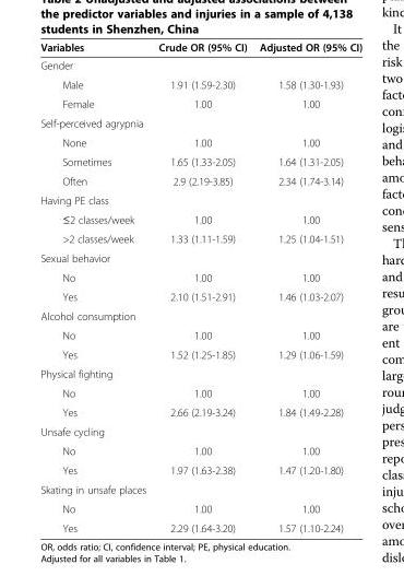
<table><thead><tr><td>Variables</td><td>Crude OR (95% CI)</td><td>Adjusted OR (95% CI)</td></tr></thead><tbody><tr><td colspan="3">Gender</td></tr><tr><td>Male</td><td>1.91 (1.59-2.30)</td><td>1.58 (1.30-1.93)</td></tr><tr><td>Female</td><td>1.00</td><td>1.00</td></tr><tr><td colspan="3">Self-perceived agrypnia</td></tr><tr><td>None</td><td>1.00</td><td>1.00</td></tr><tr><td>Sometimes</td><td>1.65 (1.33-2.05)</td><td>1.64 (1.31-2.05)</td></tr><tr><td>Often</td><td>2.9 (2.19-3.85)</td><td>2.34 (1.74-3.14)</td></tr><tr><td colspan="3">Having PE class</td></tr><tr><td>≤2 classes/week</td><td>1.00</td><td>1.00</td></tr><tr><td>&gt;2 classes/week</td><td>1.33 (1.11-1.59)</td><td>1.25 (1.04-1.51)</td></tr><tr><td colspan="3">Sexual behavior</td></tr><tr><td>No</td><td>1.00</td><td>1.00</td></tr><tr><td>Yes</td><td>2.10 (1.51-2.91)</td><td>1.46 (1.03-2.07)</td></tr><tr><td colspan="3">Alcohol consumption</td></tr><tr><td>No</td><td>1.00</td><td>1.00</td></tr><tr><td>Yes</td><td>1.52 (1.25-1.85)</td><td>1.29 (1.06-1.59)</td></tr><tr><td colspan="3">Physical fighting</td></tr><tr><td>No</td><td>1.00</td><td>1.00</td></tr><tr><td>Yes</td><td>2.66 (2.19-3.24)</td><td>1.84 (1.49-2.28)</td></tr><tr><td colspan="3">Unsafe cycling</td></tr><tr><td>No</td><td>1.00</td><td>1.00</td></tr><tr><td>Yes</td><td>1.97 (1.63-2.38)</td><td>1.47 (1.20-1.80)</td></tr><tr><td colspan="3">Skating in unsafe places</td></tr><tr><td>No</td><td>1.00</td><td>1.00</td></tr><tr><td>Yes</td><td>2.29 (1.64-3.20)</td><td>1.57 (1.10-2.24)</td></tr></tbody></table>